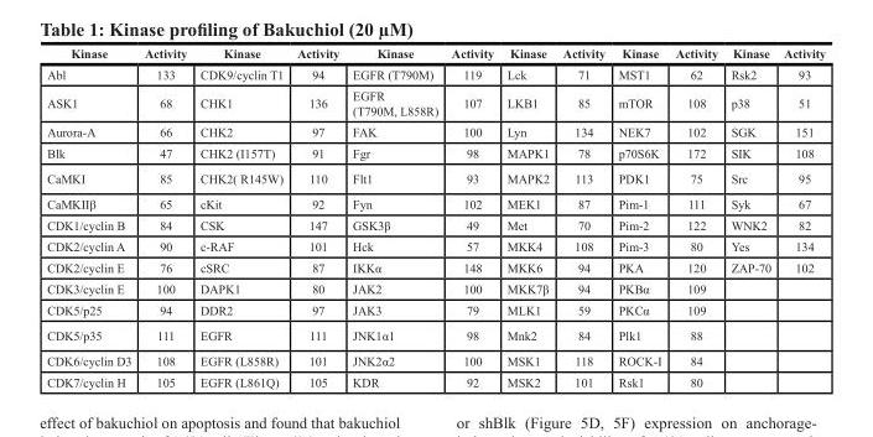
<table><thead><tr><td>Kinase</td><td>Activity</td><td>Kinase</td><td>Activity</td><td>Kinase</td><td>Activity</td><td>Kinase</td><td>Activity</td><td>Kinase</td><td>Activity</td><td>Kinase</td><td>Activity</td></tr></thead><tbody><tr><td>Abl</td><td>133</td><td>CDK9/cyclin T1</td><td>94</td><td>EGFR (T790M)</td><td>119</td><td>Lck</td><td>71</td><td>MST1</td><td>62</td><td>Rsk2</td><td>93</td></tr><tr><td>ASK1</td><td>68</td><td>CHK1</td><td>136</td><td>EGFR (T790M, L858R)</td><td>107</td><td>LKB1</td><td>85</td><td>mTOR</td><td>108</td><td>p38</td><td>51</td></tr><tr><td>Aurora-A</td><td>66</td><td>CHK2</td><td>97</td><td>FAK</td><td>100</td><td>Lyn</td><td>134</td><td>NEK7</td><td>102</td><td>SGK</td><td>151</td></tr><tr><td>Blk</td><td>47</td><td>CHK2 (I157T)</td><td>91</td><td>Fgr</td><td>98</td><td>MAPK1</td><td>78</td><td>p70S6K</td><td>172</td><td>SIK</td><td>108</td></tr><tr><td>CaMKI</td><td>85</td><td>CHK2( R145W)</td><td>110</td><td>Flt1</td><td>93</td><td>MAPK2</td><td>113</td><td>PDK1</td><td>75</td><td>Src</td><td>95</td></tr><tr><td>CaMKIIβ</td><td>65</td><td>cKit</td><td>92</td><td>Fyn</td><td>102</td><td>MEK1</td><td>87</td><td>Pim-1</td><td>111</td><td>Syk</td><td>67</td></tr><tr><td>CDK1/cyclin B</td><td>84</td><td>CSK</td><td>147</td><td>GSK3β</td><td>49</td><td>Met</td><td>70</td><td>Pim-2</td><td>122</td><td>WNK2</td><td>82</td></tr><tr><td>CDK2/cyclin A</td><td>90</td><td>c-RAF</td><td>101</td><td>Hck</td><td>57</td><td>MKK4</td><td>108</td><td>Pim-3</td><td>80</td><td>Yes</td><td>134</td></tr><tr><td>CDK2/cyclin E</td><td>76</td><td>cSRC</td><td>87</td><td>IKKα</td><td>148</td><td>MKK6</td><td>94</td><td>PKA</td><td>120</td><td>ZAP-70</td><td>102</td></tr><tr><td>CDK3/cyclin E</td><td>100</td><td>DAPK1</td><td>80</td><td>JAK2</td><td>100</td><td>MKK7β</td><td>94</td><td>PKBα</td><td>109</td><td></td><td></td></tr><tr><td>CDK5/p25</td><td>94</td><td>DDR2</td><td>97</td><td>JAK3</td><td>79</td><td>MLK1</td><td>59</td><td>PKCα</td><td>109</td><td></td><td></td></tr><tr><td>CDK5/p35</td><td>111</td><td>EGFR</td><td>111</td><td>JNK1α1</td><td>98</td><td>Mnk2</td><td>84</td><td>Plk1</td><td>88</td><td></td><td></td></tr><tr><td>CDK6/cyclin D3</td><td>108</td><td>EGFR (L858R)</td><td>101</td><td>JNK2α2</td><td>100</td><td>MSK1</td><td>118</td><td>ROCK-I</td><td>84</td><td></td><td></td></tr><tr><td>CDK7/cyclin H</td><td>105</td><td>EGFR (L861Q)</td><td>105</td><td>KDR</td><td>92</td><td>MSK2</td><td>101</td><td>Rsk1</td><td>80</td><td></td><td></td></tr></tbody></table>